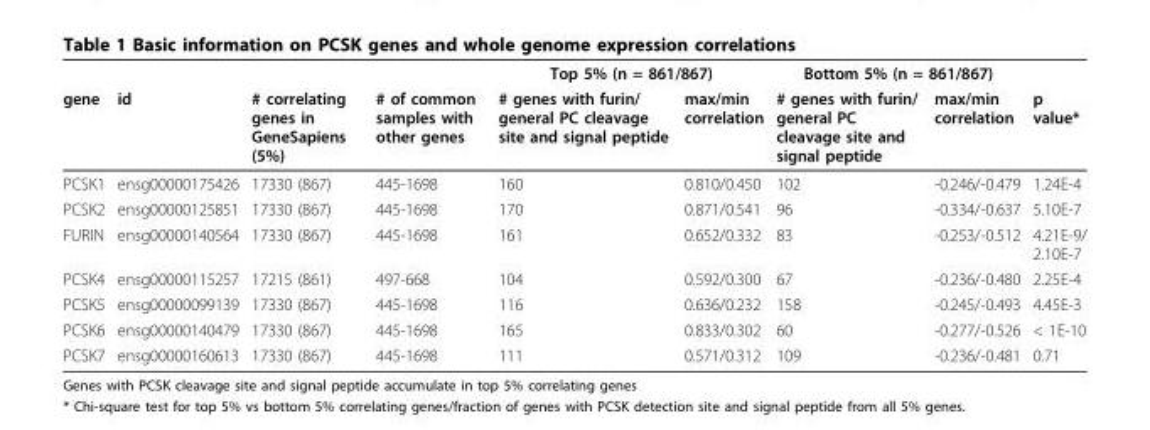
<table><thead><tr><td rowspan="2">gene</td><td rowspan="2">id</td><td rowspan="2"># correlating genes in GeneSapiens (5%)</td><td rowspan="2"># of common samples with other genes</td><td colspan="2">Top 5% (n = 861/867)</td><td colspan="2">Bottom 5% (n = 861/867)</td><td rowspan="2">p value*</td></tr><tr><td># genes with furin/ general PC cleavage site and signal peptide</td><td>max/min correlation</td><td># genes with furin/ general PC cleavage site and signal peptide</td><td>max/min correlation</td></tr></thead><tbody><tr><td>PCSK1</td><td>ensg00000175426</td><td>17330 (867)</td><td>445-1698</td><td>160</td><td>0.810/0.450</td><td>102</td><td>-0.246/-0.479</td><td>1.24E-4</td></tr><tr><td>PCSK2</td><td>ensg00000125851</td><td>17330 (867)</td><td>445-1698</td><td>170</td><td>0.871/0.541</td><td>96</td><td>-0.334/-0.637</td><td>5.10E-7</td></tr><tr><td>FURIN</td><td>ensg00000140564</td><td>17330 (867)</td><td>445-1698</td><td>161</td><td>0.652/0.332</td><td>83</td><td>-0.253/-0.512</td><td>4.21E-9/ 2.10E-7</td></tr><tr><td>PCSK4</td><td>ensg00000115257</td><td>17215 (861)</td><td>497-668</td><td>104</td><td>0.592/0.300</td><td>67</td><td>-0.236/-0.480</td><td>2.25E-4</td></tr><tr><td>PCSK5</td><td>ensg00000099139</td><td>17330 (867)</td><td>445-1698</td><td>116</td><td>0.636/0.232</td><td>158</td><td>-0.245/-0.493</td><td>4.45E-3</td></tr><tr><td>PCSK6</td><td>ensg00000140479</td><td>17330 (867)</td><td>445-1698</td><td>165</td><td>0.833/0.302</td><td>60</td><td>-0.277/-0.526</td><td>&lt; 1E-10</td></tr><tr><td>PCSK7</td><td>ensg00000160613</td><td>17330 (867)</td><td>445-1698</td><td>111</td><td>0.571/0.312</td><td>109</td><td>-0.236/-0.481</td><td>0.71</td></tr></tbody></table>